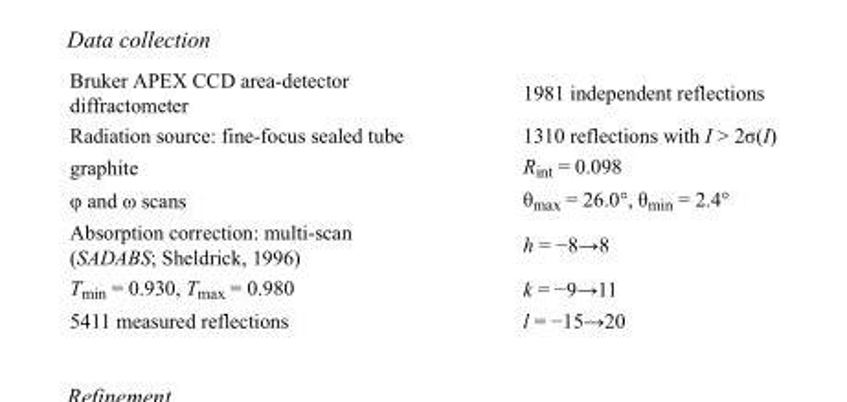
<table><tbody><tr><td>Bruker APEX CCD area-detector diffractometer</td><td>1981 independent reflections</td></tr><tr><td>Radiation source: fine-focus sealed tube</td><td>1310 reflections with I &gt; 2σ(I)</td></tr><tr><td>graphite</td><td>R<sub>int</sub> = 0.098</td></tr><tr><td>φ and ω scans</td><td>θ<sub>max</sub> = 26.0°, θ<sub>min</sub> = 2.4°</td></tr><tr><td>Absorption correction: multi-scan (SADABS; Sheldrick, 1996)</td><td>h = −8→8</td></tr><tr><td>T<sub>min</sub> = 0.930, T<sub>max</sub> = 0.980</td><td>k = −9→11</td></tr><tr><td>5411 measured reflections</td><td>l = −15→20</td></tr></tbody></table>